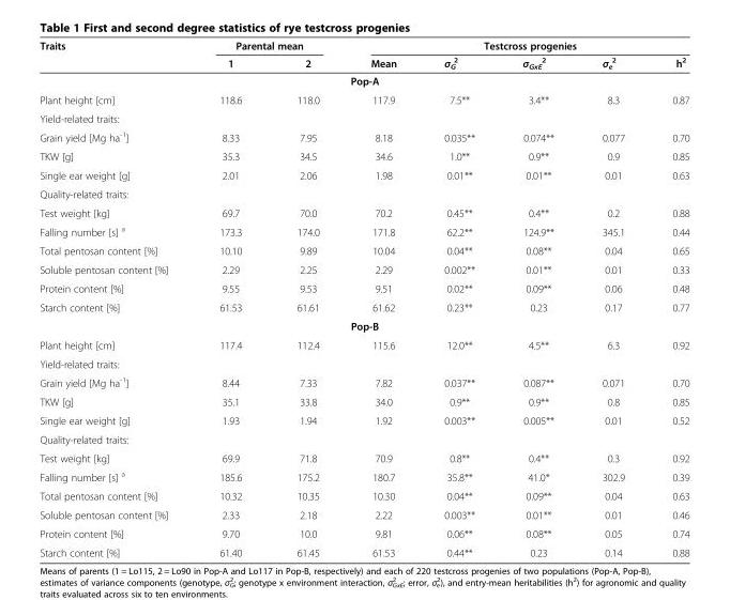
<table><thead><tr><td rowspan="2">Traits</td><td colspan="2">Parental mean</td><td colspan="5">Testcross progenies</td></tr><tr><td>1</td><td>2</td><td>Mean</td><td>σ<sub>G</sub> <sup>2</sup></td><td>σ<sub>GxE</sub> <sup>2</sup></td><td>σ<sub>e</sub> <sup>2</sup></td><td>h<sup>2</sup></td></tr></thead><tbody><tr><td colspan="8">Pop-A</td></tr><tr><td>Plant height [cm]</td><td>118.6</td><td>118.0</td><td>117.9</td><td>7.5**</td><td>3.4**</td><td>8.3</td><td>0.87</td></tr><tr><td colspan="8">Yield-related traits:</td></tr><tr><td>Grain yield [Mg ha<sup>-1</sup>]</td><td>8.33</td><td>7.95</td><td>8.18</td><td>0.035**</td><td>0.074**</td><td>0.077</td><td>0.70</td></tr><tr><td>TKW [g]</td><td>35.3</td><td>34.5</td><td>34.6</td><td>1.0**</td><td>0.9**</td><td>0.9</td><td>0.85</td></tr><tr><td>Single ear weight [g]</td><td>2.01</td><td>2.06</td><td>1.98</td><td>0.01**</td><td>0.01**</td><td>0.01</td><td>0.63</td></tr><tr><td colspan="8">Quality-related traits:</td></tr><tr><td>Test weight [kg]</td><td>69.7</td><td>70.0</td><td>70.2</td><td>0.45**</td><td>0.4**</td><td>0.2</td><td>0.88</td></tr><tr><td>Falling number [s] <sup>a</sup></td><td>173.3</td><td>174.0</td><td>171.8</td><td>62.2**</td><td>124.9**</td><td>345.1</td><td>0.44</td></tr><tr><td>Total pentosan content [%]</td><td>10.10</td><td>9.89</td><td>10.04</td><td>0.04**</td><td>0.08**</td><td>0.04</td><td>0.65</td></tr><tr><td>Soluble pentosan content [%]</td><td>2.29</td><td>2.25</td><td>2.29</td><td>0.002**</td><td>0.01**</td><td>0.01</td><td>0.33</td></tr><tr><td>Protein content [%]</td><td>9.55</td><td>9.53</td><td>9.51</td><td>0.02**</td><td>0.09**</td><td>0.06</td><td>0.48</td></tr><tr><td>Starch content [%]</td><td>61.53</td><td>61.61</td><td>61.62</td><td>0.23**</td><td>0.23</td><td>0.17</td><td>0.77</td></tr><tr><td colspan="8">Pop-B</td></tr><tr><td>Plant height [cm]</td><td>117.4</td><td>112.4</td><td>115.6</td><td>12.0**</td><td>4.5**</td><td>6.3</td><td>0.92</td></tr><tr><td colspan="8">Yield-related traits:</td></tr><tr><td>Grain yield [Mg ha<sup>-1</sup>]</td><td>8.44</td><td>7.33</td><td>7.82</td><td>0.037**</td><td>0.087**</td><td>0.071</td><td>0.70</td></tr><tr><td>TKW [g]</td><td>35.1</td><td>33.8</td><td>34.0</td><td>0.9**</td><td>0.9**</td><td>0.8</td><td>0.85</td></tr><tr><td>Single ear weight [g]</td><td>1.93</td><td>1.94</td><td>1.92</td><td>0.003**</td><td>0.005**</td><td>0.01</td><td>0.52</td></tr><tr><td colspan="8">Quality-related traits:</td></tr><tr><td>Test weight [kg]</td><td>69.9</td><td>71.8</td><td>70.9</td><td>0.8**</td><td>0.4**</td><td>0.3</td><td>0.92</td></tr><tr><td>Falling number [s] <sup>a</sup></td><td>185.6</td><td>175.2</td><td>180.7</td><td>35.8**</td><td>41.0*</td><td>302.9</td><td>0.39</td></tr><tr><td>Total pentosan content [%]</td><td>10.32</td><td>10.35</td><td>10.30</td><td>0.04**</td><td>0.09**</td><td>0.04</td><td>0.63</td></tr><tr><td>Soluble pentosan content [%]</td><td>2.33</td><td>2.18</td><td>2.22</td><td>0.003**</td><td>0.01**</td><td>0.01</td><td>0.46</td></tr><tr><td>Protein content [%]</td><td>9.70</td><td>10.0</td><td>9.81</td><td>0.06**</td><td>0.08**</td><td>0.05</td><td>0.74</td></tr><tr><td>Starch content [%]</td><td>61.40</td><td>61.45</td><td>61.53</td><td>0.44**</td><td>0.23</td><td>0.14</td><td>0.88</td></tr></tbody></table>